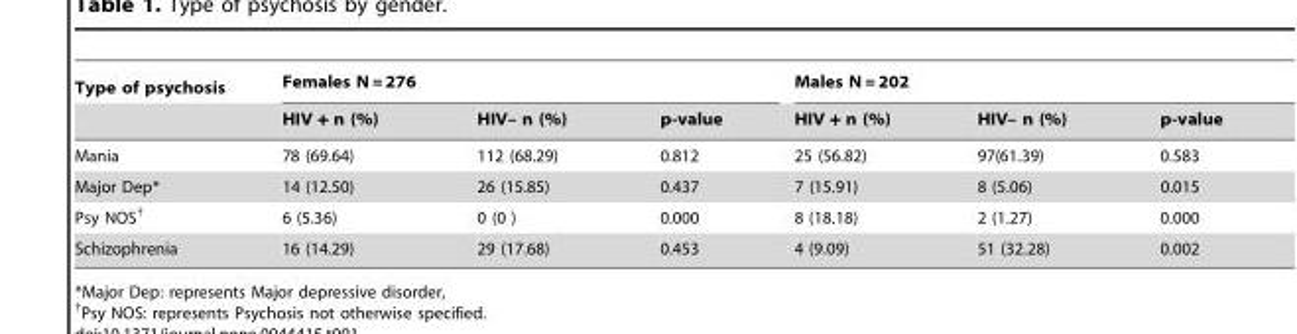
<table><thead><tr><td rowspan="2">Type of psychosis</td><td colspan="3">Females N = 276</td><td colspan="3">Males N = 202</td></tr><tr><td>HIV + n (%)</td><td>HIV– n (%)</td><td>p-value</td><td>HIV + n (%)</td><td>HIV– n (%)</td><td>p-value</td></tr></thead><tbody><tr><td>Mania</td><td>78 (69.64)</td><td>112 (68.29)</td><td>0.812</td><td>25 (56.82)</td><td>97(61.39)</td><td>0.583</td></tr><tr><td>Major Dep*</td><td>14 (12.50)</td><td>26 (15.85)</td><td>0.437</td><td>7 (15.91)</td><td>8 (5.06)</td><td>0.015</td></tr><tr><td>Psy NOS†</td><td>6 (5.36)</td><td>0 (0 )</td><td>0.000</td><td>8 (18.18)</td><td>2 (1.27)</td><td>0.000</td></tr><tr><td>Schizophrenia</td><td>16 (14.29)</td><td>29 (17.68)</td><td>0.453</td><td>4 (9.09)</td><td>51 (32.28)</td><td>0.002</td></tr></tbody></table>